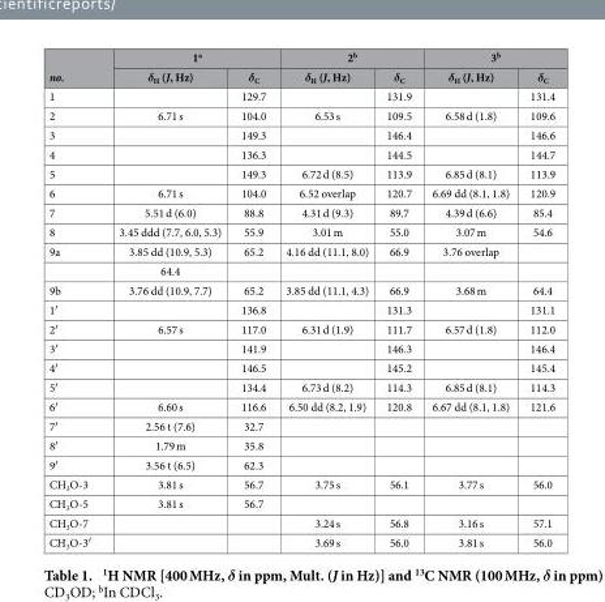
<table><thead><tr><td rowspan="2">no.</td><td colspan="2">1<sup>a</sup></td><td colspan="2">2<sup>b</sup></td><td colspan="2">3<sup>b</sup></td></tr><tr><td>δ<sub>H</sub> (J, Hz)</td><td>δ<sub>C</sub></td><td>δ<sub>H</sub> (J, Hz)</td><td>δ<sub>C</sub></td><td>δ<sub>H</sub> (J, Hz)</td><td>δ<sub>C</sub></td></tr></thead><tbody><tr><td>1</td><td></td><td>129.7</td><td></td><td>131.9</td><td></td><td>131.4</td></tr><tr><td>2</td><td>6.71 s</td><td>104.0</td><td>6.53 s</td><td>109.5</td><td>6.58 d (1.8)</td><td>109.6</td></tr><tr><td>3</td><td></td><td>149.3</td><td></td><td>146.4</td><td></td><td>146.6</td></tr><tr><td>4</td><td></td><td>136.3</td><td></td><td>144.5</td><td></td><td>144.7</td></tr><tr><td>5</td><td></td><td>149.3</td><td>6.72 d (8.5)</td><td>113.9</td><td>6.85 d (8.1)</td><td>113.9</td></tr><tr><td>6</td><td>6.71 s</td><td>104.0</td><td>6.52 overlap</td><td>120.7</td><td>6.69 dd (8.1, 1.8)</td><td>120.9</td></tr><tr><td>7</td><td>5.51 d (6.0)</td><td>88.8</td><td>4.31 d (9.3)</td><td>89.7</td><td>4.39 d (6.6)</td><td>85.4</td></tr><tr><td>8</td><td>3.45 ddd (7.7, 6.0, 5.3)</td><td>55.9</td><td>3.01 m</td><td>55.0</td><td>3.07 m</td><td>54.6</td></tr><tr><td rowspan="2">9a</td><td>3.85 dd (10.9, 5.3)</td><td>65.2</td><td>4.16 dd (11.1, 8.0)</td><td>66.9</td><td>3.76 overlap</td><td></td></tr><tr><td>64.4</td><td></td><td></td><td></td><td></td><td></td></tr><tr><td>9b</td><td>3.76 dd (10.9, 7.7)</td><td>65.2</td><td>3.85 dd (11.1, 4.3)</td><td>66.9</td><td>3.68 m</td><td>64.4</td></tr><tr><td>1′</td><td></td><td>136.8</td><td></td><td>131.3</td><td></td><td>131.1</td></tr><tr><td>2′</td><td>6.57 s</td><td>117.0</td><td>6.31 d (1.9)</td><td>111.7</td><td>6.57 d (1.8)</td><td>112.0</td></tr><tr><td>3′</td><td></td><td>141.9</td><td></td><td>146.3</td><td></td><td>146.4</td></tr><tr><td>4′</td><td></td><td>146.5</td><td></td><td>145.2</td><td></td><td>145.4</td></tr><tr><td>5′</td><td></td><td>134.4</td><td>6.73 d (8.2)</td><td>114.3</td><td>6.85 d (8.1)</td><td>114.3</td></tr><tr><td>6′</td><td>6.60 s</td><td>116.6</td><td>6.50 dd (8.2, 1.9)</td><td>120.8</td><td>6.67 dd (8.1, 1.8)</td><td>121.6</td></tr><tr><td>7′</td><td>2.56 t (7.6)</td><td>32.7</td><td></td><td></td><td></td><td></td></tr><tr><td>8′</td><td>1.79 m</td><td>35.8</td><td></td><td></td><td></td><td></td></tr><tr><td>9′</td><td>3.56 t (6.5)</td><td>62.3</td><td></td><td></td><td></td><td></td></tr><tr><td>CH<sub>3</sub>O-3</td><td>3.81 s</td><td>56.7</td><td>3.75 s</td><td>56.1</td><td>3.77 s</td><td>56.0</td></tr><tr><td>CH<sub>3</sub>O-5</td><td>3.81 s</td><td>56.7</td><td></td><td></td><td></td><td></td></tr><tr><td>CH<sub>3</sub>O-7</td><td></td><td></td><td>3.24 s</td><td>56.8</td><td>3.16 s</td><td>57.1</td></tr><tr><td>CH<sub>3</sub>O-3′</td><td></td><td></td><td>3.69 s</td><td>56.0</td><td>3.81 s</td><td>56.0</td></tr></tbody></table>